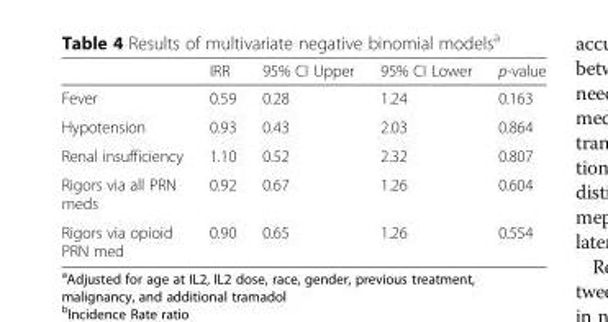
<table><thead><tr><td></td><td>IRR</td><td>95% CI Upper</td><td>95% CI Lower</td><td>p-value</td></tr></thead><tbody><tr><td>Fever</td><td>0.59</td><td>0.28</td><td>1.24</td><td>0.163</td></tr><tr><td>Hypotension</td><td>0.93</td><td>0.43</td><td>2.03</td><td>0.864</td></tr><tr><td>Renal insufficiency</td><td>1.10</td><td>0.52</td><td>2.32</td><td>0.807</td></tr><tr><td>Rigors via all PRN meds</td><td>0.92</td><td>0.67</td><td>1.26</td><td>0.604</td></tr><tr><td>Rigors via opioid PRN med</td><td>0.90</td><td>0.65</td><td>1.26</td><td>0.554</td></tr></tbody></table>